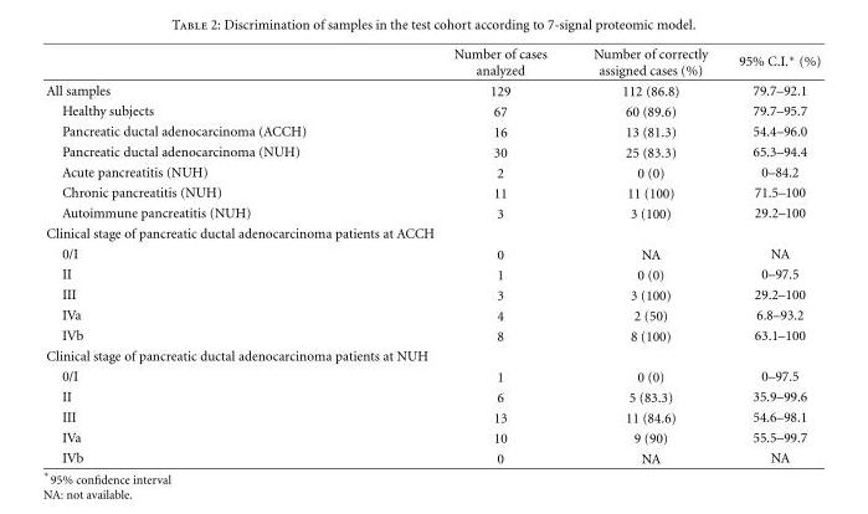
<table><thead><tr><td></td><td>Number of cases analyzed</td><td>Number of correctly assigned cases (%)</td><td>95% C.I.∗ (%)</td></tr></thead><tbody><tr><td>All samples</td><td>129</td><td>112 (86.8)</td><td>79.7–92.1</td></tr><tr><td>Healthy subjects</td><td>67</td><td>60 (89.6)</td><td>79.7–95.7</td></tr><tr><td>Pancreatic ductal adenocarcinoma (ACCH)</td><td>16</td><td>13 (81.3)</td><td>54.4–96.0</td></tr><tr><td>Pancreatic ductal adenocarcinoma (NUH)</td><td>30</td><td>25 (83.3)</td><td>65.3–94.4</td></tr><tr><td>Acute pancreatitis (NUH)</td><td>2</td><td>0 (0)</td><td>0–84.2</td></tr><tr><td>Chronic pancreatitis (NUH)</td><td>11</td><td>11 (100)</td><td>71.5–100</td></tr><tr><td>Autoimmune pancreatitis (NUH)</td><td>3</td><td>3 (100)</td><td>29.2–100</td></tr><tr><td colspan="4">Clinical stage of pancreatic ductal adenocarcinoma patients at ACCH</td></tr><tr><td>0/I</td><td>0</td><td>NA</td><td>NA</td></tr><tr><td>II</td><td>1</td><td>0 (0)</td><td>0–97.5</td></tr><tr><td>III</td><td>3</td><td>3 (100)</td><td>29.2–100</td></tr><tr><td>IVa</td><td>4</td><td>2 (50)</td><td>6.8–93.2</td></tr><tr><td>IVb</td><td>8</td><td>8 (100)</td><td>63.1–100</td></tr><tr><td colspan="4">Clinical stage of pancreatic ductal adenocarcinoma patients at NUH</td></tr><tr><td>0/I</td><td>1</td><td>0 (0)</td><td>0–97.5</td></tr><tr><td>II</td><td>6</td><td>5 (83.3)</td><td>35.9–99.6</td></tr><tr><td>III</td><td>13</td><td>11 (84.6)</td><td>54.6–98.1</td></tr><tr><td>IVa</td><td>10</td><td>9 (90)</td><td>55.5–99.7</td></tr><tr><td>IVb</td><td>0</td><td>NA</td><td>NA</td></tr></tbody></table>